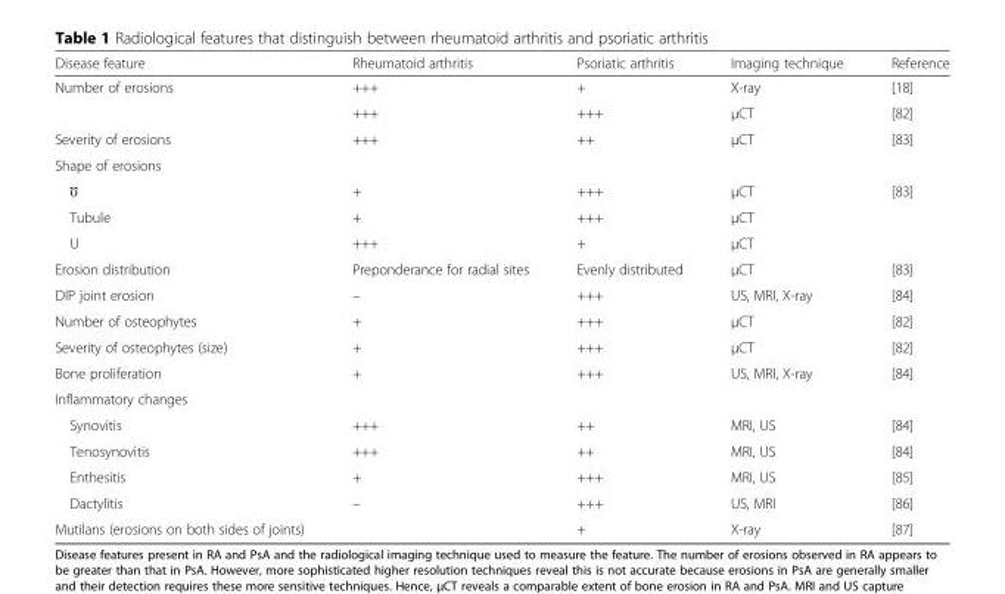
<table><thead><tr><td>Disease feature</td><td>Rheumatoid arthritis</td><td>Psoriatic arthritis</td><td>Imaging technique</td><td>Reference</td></tr></thead><tbody><tr><td rowspan="2">Number of erosions</td><td>+++</td><td>+</td><td>X-ray</td><td>[18]</td></tr><tr><td>+++</td><td>+++</td><td>μCT</td><td>[82]</td></tr><tr><td>Severity of erosions</td><td>+++</td><td>++</td><td>μCT</td><td>[83]</td></tr><tr><td colspan="5">Shape of erosions</td></tr><tr><td>Ʊ</td><td>+</td><td>+++</td><td>μCT</td><td>[83]</td></tr><tr><td>Tubule</td><td>+</td><td>+++</td><td>μCT</td><td></td></tr><tr><td>U</td><td>+++</td><td>+</td><td>μCT</td><td></td></tr><tr><td>Erosion distribution</td><td>Preponderance for radial sites</td><td>Evenly distributed</td><td>μCT</td><td>[83]</td></tr><tr><td>DIP joint erosion</td><td>–</td><td>+++</td><td>US, MRI, X-ray</td><td>[84]</td></tr><tr><td>Number of osteophytes</td><td>+</td><td>+++</td><td>μCT</td><td>[82]</td></tr><tr><td>Severity of osteophytes (size)</td><td>+</td><td>+++</td><td>μCT</td><td>[82]</td></tr><tr><td>Bone proliferation</td><td>+</td><td>+++</td><td>US, MRI, X-ray</td><td>[84]</td></tr><tr><td colspan="5">Inflammatory changes</td></tr><tr><td>Synovitis</td><td>+++</td><td>++</td><td>MRI, US</td><td>[84]</td></tr><tr><td>Tenosynovitis</td><td>+++</td><td>++</td><td>MRI, US</td><td>[84]</td></tr><tr><td>Enthesitis</td><td>+</td><td>+++</td><td>MRI, US</td><td>[85]</td></tr><tr><td>Dactylitis</td><td>–</td><td>+++</td><td>US, MRI</td><td>[86]</td></tr><tr><td>Mutilans (erosions on both sides of joints)</td><td></td><td>+</td><td>X-ray</td><td>[87]</td></tr></tbody></table>